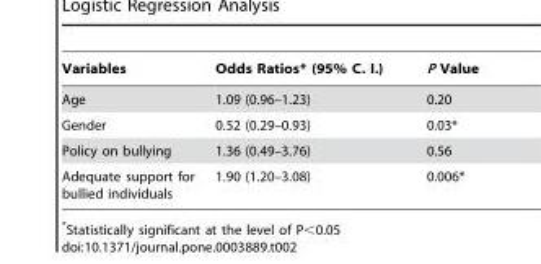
<table><thead><tr><td>Variables</td><td>Odds Ratios* (95% C. I.)</td><td>P Value</td></tr></thead><tbody><tr><td>Age</td><td>1.09 (0.96–1.23)</td><td>0.20</td></tr><tr><td>Gender</td><td>0.52 (0.29–0.93)</td><td>0.03*</td></tr><tr><td>Policy on bullying</td><td>1.36 (0.49–3.76)</td><td>0.56</td></tr><tr><td>Adequate support for bullied individuals</td><td>1.90 (1.20–3.08)</td><td>0.006*</td></tr></tbody></table>